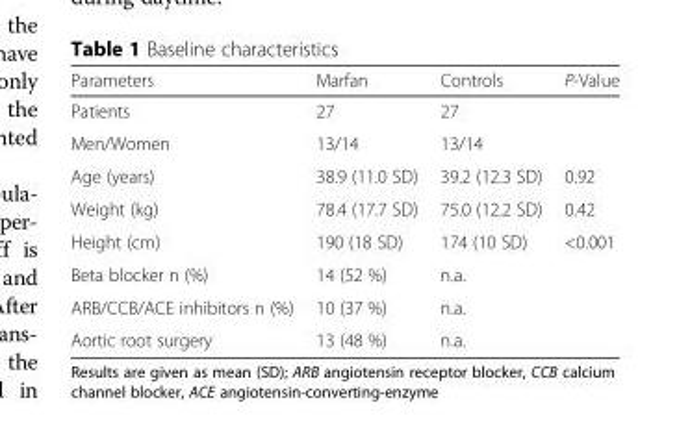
<table><thead><tr><td>Parameters</td><td>Marfan</td><td>Controls</td><td>P-Value</td></tr></thead><tbody><tr><td>Patients</td><td>27</td><td>27</td><td></td></tr><tr><td>Men/Women</td><td>13/14</td><td>13/14</td><td></td></tr><tr><td>Age (years)</td><td>38.9 (11.0 SD)</td><td>39.2 (12.3 SD)</td><td>0.92</td></tr><tr><td>Weight (kg)</td><td>78.4 (17.7 SD)</td><td>75.0 (12.2 SD)</td><td>0.42</td></tr><tr><td>Height (cm)</td><td>190 (18 SD)</td><td>174 (10 SD)</td><td>&lt;0.001</td></tr><tr><td>Beta blocker n (%)</td><td>14 (52 %)</td><td>n.a.</td><td></td></tr><tr><td>ARB/CCB/ACE inhibitors n (%)</td><td>10 (37 %)</td><td>n.a.</td><td></td></tr><tr><td>Aortic root surgery</td><td>13 (48 %)</td><td>n.a.</td><td></td></tr></tbody></table>